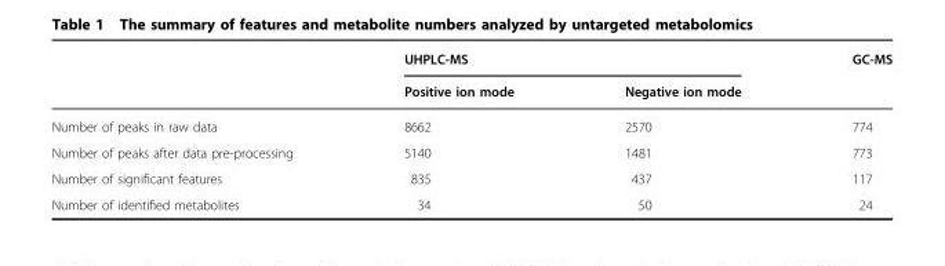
<table><thead><tr><td rowspan="2"></td><td colspan="2">UHPLC-MS</td><td rowspan="2">GC-MS</td></tr><tr><td>Positive ion mode</td><td>Negative ion mode</td></tr></thead><tbody><tr><td>Number of peaks in raw data</td><td>8662</td><td>2570</td><td>774</td></tr><tr><td>Number of peaks after data pre-processing</td><td>5140</td><td>1481</td><td>773</td></tr><tr><td>Number of significant features</td><td>835</td><td>437</td><td>117</td></tr><tr><td>Number of identified metabolites</td><td>34</td><td>50</td><td>24</td></tr></tbody></table>